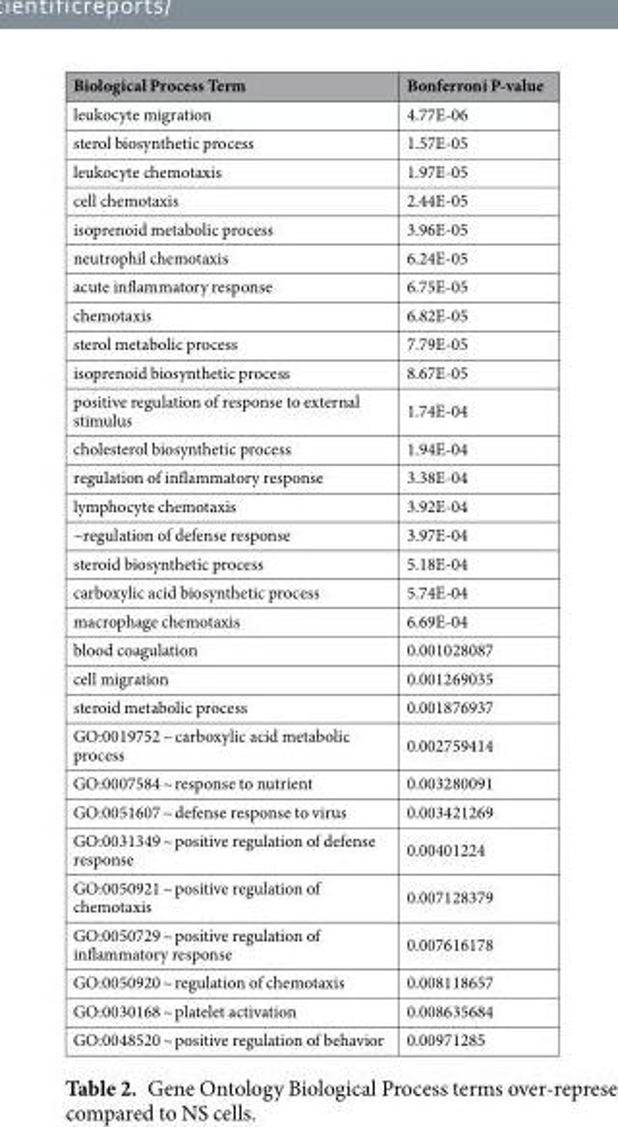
<table><thead><tr><td>Biological Process Term</td><td>Bonferroni P-value</td></tr></thead><tbody><tr><td>leukocyte migration</td><td>4.77E-06</td></tr><tr><td>sterol biosynthetic process</td><td>1.57E-05</td></tr><tr><td>leukocyte chemotaxis</td><td>1.97E-05</td></tr><tr><td>cell chemotaxis</td><td>2.44E-05</td></tr><tr><td>isoprenoid metabolic process</td><td>3.96E-05</td></tr><tr><td>neutrophil chemotaxis</td><td>6.24E-05</td></tr><tr><td>acute inflammatory response</td><td>6.75E-05</td></tr><tr><td>chemotaxis</td><td>6.82E-05</td></tr><tr><td>sterol metabolic process</td><td>7.79E-05</td></tr><tr><td>isoprenoid biosynthetic process</td><td>8.67E-05</td></tr><tr><td>positive regulation of response to external stimulus</td><td>1.74E-04</td></tr><tr><td>cholesterol biosynthetic process</td><td>1.94E-04</td></tr><tr><td>regulation of inflammatory response</td><td>3.38E-04</td></tr><tr><td>lymphocyte chemotaxis</td><td>3.92E-04</td></tr><tr><td>~regulation of defense response</td><td>3.97E-04</td></tr><tr><td>steroid biosynthetic process</td><td>5.18E-04</td></tr><tr><td>carboxylic acid biosynthetic process</td><td>5.74E-04</td></tr><tr><td>macrophage chemotaxis</td><td>6.69E-04</td></tr><tr><td>blood coagulation</td><td>0.001028087</td></tr><tr><td>cell migration</td><td>0.001269035</td></tr><tr><td>steroid metabolic process</td><td>0.001876937</td></tr><tr><td>GO:0019752 ~ carboxylic acid metabolic process</td><td>0.002759414</td></tr><tr><td>GO:0007584 ~ response to nutrient</td><td>0.003280091</td></tr><tr><td>GO:0051607 ~ defense response to virus</td><td>0.003421269</td></tr><tr><td>GO:0031349 ~ positive regulation of defense response</td><td>0.00401224</td></tr><tr><td>GO:0050921 ~ positive regulation of chemotaxis</td><td>0.007128379</td></tr><tr><td>GO:0050729 ~ positive regulation of inflammatory response</td><td>0.007616178</td></tr><tr><td>GO:0050920 ~ regulation of chemotaxis</td><td>0.008118657</td></tr><tr><td>GO:0030168 ~ platelet activation</td><td>0.008635684</td></tr><tr><td>GO:0048520 ~ positive regulation of behavior</td><td>0.00971285</td></tr></tbody></table>